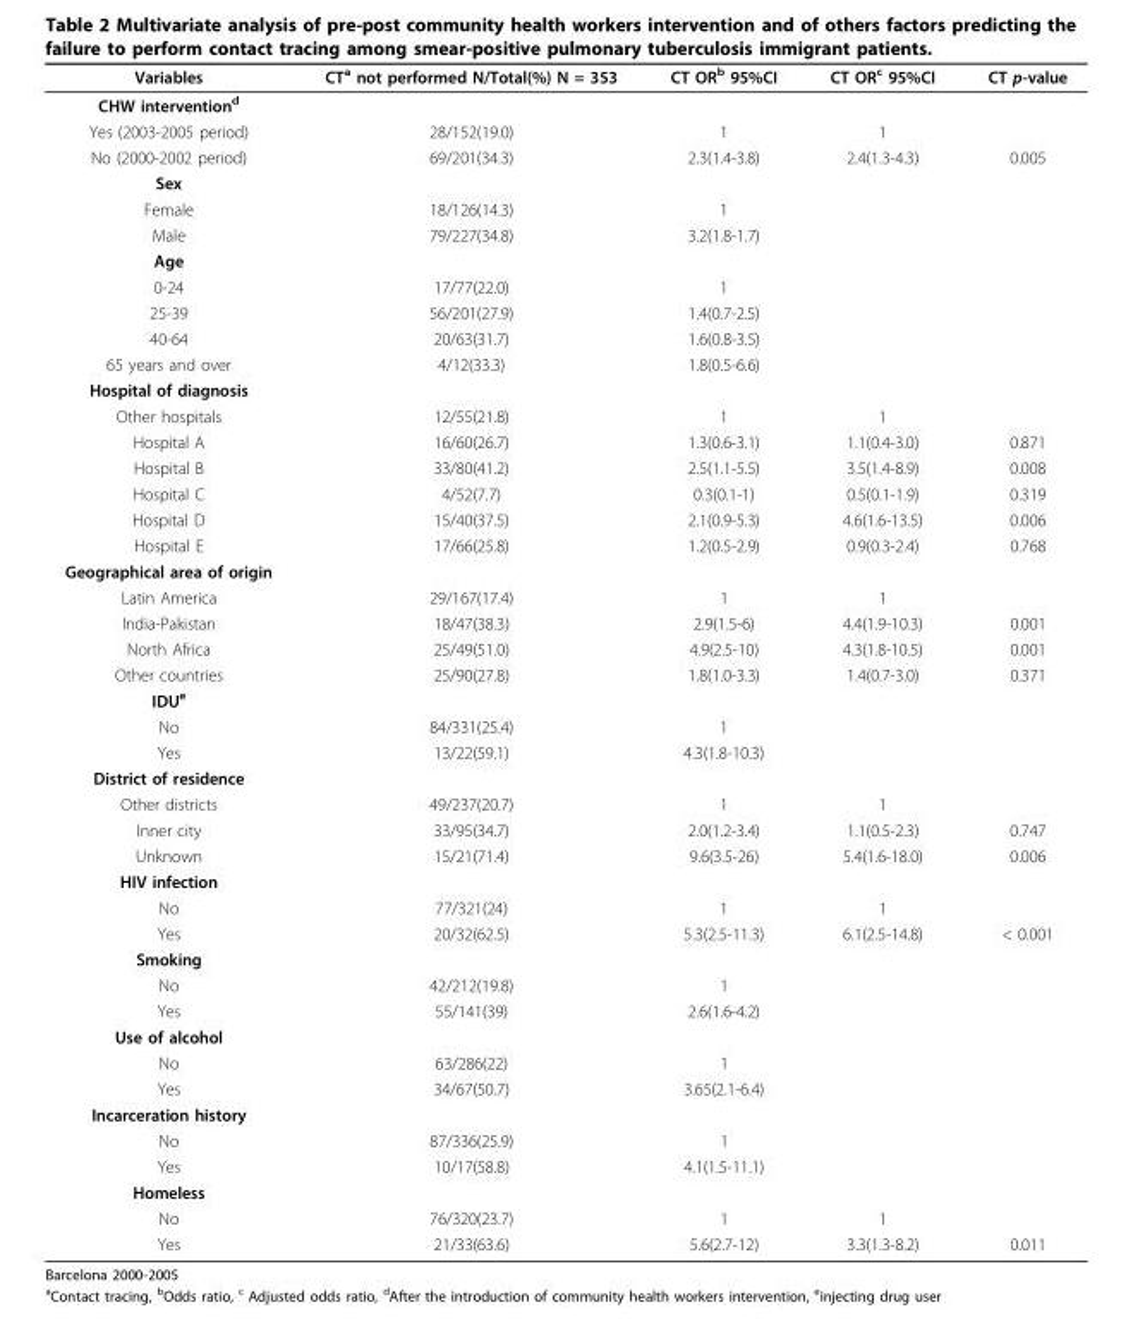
<table><thead><tr><td>Variables</td><td>CT<sup>a</sup> not performed N/Total(%) N = 353</td><td>CT OR<sup>b</sup> 95%CI</td><td>CT OR<sup>c</sup> 95%CI</td><td>CT p-value</td></tr></thead><tbody><tr><td colspan="5">CHW intervention<sup>d</sup></td></tr><tr><td>Yes (2003-2005 period)</td><td>28/152(19.0)</td><td>1</td><td>1</td><td></td></tr><tr><td>No (2000-2002 period)</td><td>69/201(34.3)</td><td>2.3(1.4-3.8)</td><td>2.4(1.3-4.3)</td><td>0.005</td></tr><tr><td colspan="5">Sex</td></tr><tr><td>Female</td><td>18/126(14.3)</td><td>1</td><td></td><td></td></tr><tr><td>Male</td><td>79/227(34.8)</td><td>3.2(1.8-1.7)</td><td></td><td></td></tr><tr><td colspan="5">Age</td></tr><tr><td>0-24</td><td>17/77(22.0)</td><td>1</td><td></td><td></td></tr><tr><td>25-39</td><td>56/201(27.9)</td><td>1.4(0.7-2.5)</td><td></td><td></td></tr><tr><td>40-64</td><td>20/63(31.7)</td><td>1.6(0.8-3.5)</td><td></td><td></td></tr><tr><td>65 years and over</td><td>4/12(33.3)</td><td>1.8(0.5-6.6)</td><td></td><td></td></tr><tr><td colspan="5">Hospital of diagnosis</td></tr><tr><td>Other hospitals</td><td>12/55(21.8)</td><td>1</td><td>1</td><td></td></tr><tr><td>Hospital A</td><td>16/60(26.7)</td><td>1.3(0.6-3.1)</td><td>1.1(0.4-3.0)</td><td>0.871</td></tr><tr><td>Hospital B</td><td>33/80(41.2)</td><td>2.5(1.1-5.5)</td><td>3.5(1.4-8.9)</td><td>0.008</td></tr><tr><td>Hospital C</td><td>4/52(7.7)</td><td>0.3(0.1-1)</td><td>0.5(0.1-1.9)</td><td>0.319</td></tr><tr><td>Hospital D</td><td>15/40(37.5)</td><td>2.1(0.9-5.3)</td><td>4.6(1.6-13.5)</td><td>0.006</td></tr><tr><td>Hospital E</td><td>17/66(25.8)</td><td>1.2(0.5-2.9)</td><td>0.9(0.3-2.4)</td><td>0.768</td></tr><tr><td colspan="5">Geographical area of origin</td></tr><tr><td>Latin America</td><td>29/167(17.4)</td><td>1</td><td>1</td><td></td></tr><tr><td>India-Pakistan</td><td>18/47(38.3)</td><td>2.9(1.5-6)</td><td>4.4(1.9-10.3)</td><td>0.001</td></tr><tr><td>North Africa</td><td>25/49(51.0)</td><td>4.9(2.5-10)</td><td>4.3(1.8-10.5)</td><td>0.001</td></tr><tr><td>Other countries</td><td>25/90(27.8)</td><td>1.8(1.0-3.3)</td><td>1.4(0.7-3.0)</td><td>0.371</td></tr><tr><td colspan="5">IDU<sup>e</sup></td></tr><tr><td>No</td><td>84/331(25.4)</td><td>1</td><td></td><td></td></tr><tr><td>Yes</td><td>13/22(59.1)</td><td>4.3(1.8-10.3)</td><td></td><td></td></tr><tr><td colspan="5">District of residence</td></tr><tr><td>Other districts</td><td>49/237(20.7)</td><td>1</td><td>1</td><td></td></tr><tr><td>Inner city</td><td>33/95(34.7)</td><td>2.0(1.2-3.4)</td><td>1.1(0.5-2.3)</td><td>0.747</td></tr><tr><td>Unknown</td><td>15/21(71.4)</td><td>9.6(3.5-26)</td><td>5.4(1.6-18.0)</td><td>0.006</td></tr><tr><td colspan="5">HIV infection</td></tr><tr><td>No</td><td>77/321(24)</td><td>1</td><td>1</td><td></td></tr><tr><td>Yes</td><td>20/32(62.5)</td><td>5.3(2.5-11.3)</td><td>6.1(2.5-14.8)</td><td>&lt; 0.001</td></tr><tr><td colspan="5">Smoking</td></tr><tr><td>No</td><td>42/212(19.8)</td><td>1</td><td></td><td></td></tr><tr><td>Yes</td><td>55/141(39)</td><td>2.6(1.6-4.2)</td><td></td><td></td></tr><tr><td colspan="5">Use of alcohol</td></tr><tr><td>No</td><td>63/286(22)</td><td>1</td><td></td><td></td></tr><tr><td>Yes</td><td>34/67(50.7)</td><td>3.65(2.1-6.4)</td><td></td><td></td></tr><tr><td colspan="5">Incarceration history</td></tr><tr><td>No</td><td>87/336(25.9)</td><td>1</td><td></td><td></td></tr><tr><td>Yes</td><td>10/17(58.8)</td><td>4.1(1.5-11.1)</td><td></td><td></td></tr><tr><td colspan="5">Homeless</td></tr><tr><td>No</td><td>76/320(23.7)</td><td>1</td><td>1</td><td></td></tr><tr><td>Yes</td><td>21/33(63.6)</td><td>5.6(2.7-12)</td><td>3.3(1.3-8.2)</td><td>0.011</td></tr></tbody></table>